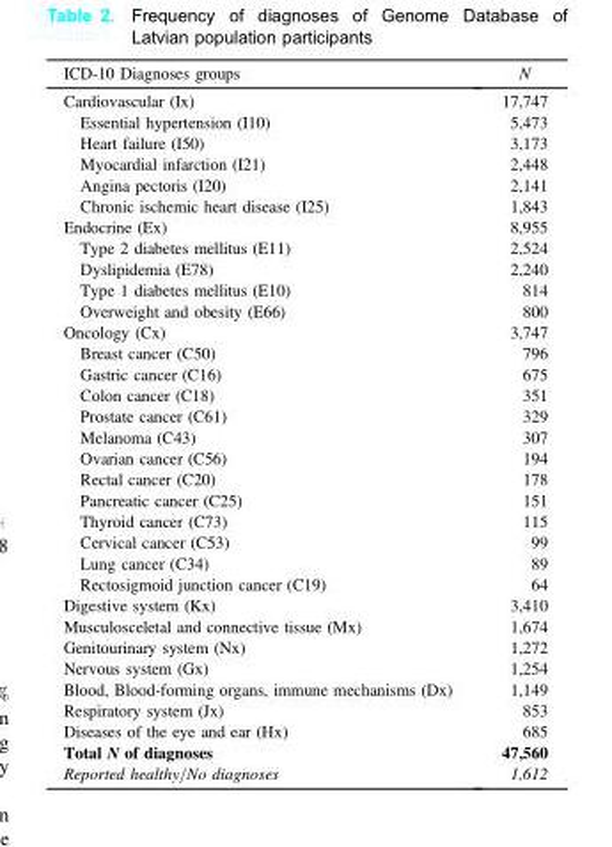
<table><thead><tr><td>ICD-10 Diagnoses groups</td><td>N</td></tr></thead><tbody><tr><td>Cardiovascular (Ix)</td><td>17,747</td></tr><tr><td>Essential hypertension (I10)</td><td>5,473</td></tr><tr><td>Heart failure (I50)</td><td>3,173</td></tr><tr><td>Myocardial infarction (I21)</td><td>2,448</td></tr><tr><td>Angina pectoris (I20)</td><td>2,141</td></tr><tr><td>Chronic ischemic heart disease (I25)</td><td>1,843</td></tr><tr><td>Endocrine (Ex)</td><td>8,955</td></tr><tr><td>Type 2 diabetes mellitus (E11)</td><td>2,524</td></tr><tr><td>Dyslipidemia (E78)</td><td>2,240</td></tr><tr><td>Type 1 diabetes mellitus (E10)</td><td>814</td></tr><tr><td>Overweight and obesity (E66)</td><td>800</td></tr><tr><td>Oncology (Cx)</td><td>3,747</td></tr><tr><td>Breast cancer (C50)</td><td>796</td></tr><tr><td>Gastric cancer (C16)</td><td>675</td></tr><tr><td>Colon cancer (C18)</td><td>351</td></tr><tr><td>Prostate cancer (C61)</td><td>329</td></tr><tr><td>Melanoma (C43)</td><td>307</td></tr><tr><td>Ovarian cancer (C56)</td><td>194</td></tr><tr><td>Rectal cancer (C20)</td><td>178</td></tr><tr><td>Pancreatic cancer (C25)</td><td>151</td></tr><tr><td>Thyroid cancer (C73)</td><td>115</td></tr><tr><td>Cervical cancer (C53)</td><td>99</td></tr><tr><td>Lung cancer (C34)</td><td>89</td></tr><tr><td>Rectosigmoid junction cancer (C19)</td><td>64</td></tr><tr><td>Digestive system (Kx)</td><td>3,410</td></tr><tr><td>Musculosceletal and connective tissue (Mx)</td><td>1,674</td></tr><tr><td>Genitourinary system (Nx)</td><td>1,272</td></tr><tr><td>Nervous system (Gx)</td><td>1,254</td></tr><tr><td>Blood, Blood-forming organs, immune mechanisms (Dx)</td><td>1,149</td></tr><tr><td>Respiratory system (Jx)</td><td>853</td></tr><tr><td>Diseases of the eye and ear (Hx)</td><td>685</td></tr><tr><td>Total N of diagnoses</td><td>47,560</td></tr><tr><td>Reported healthy=No diagnoses</td><td>1,612</td></tr></tbody></table>